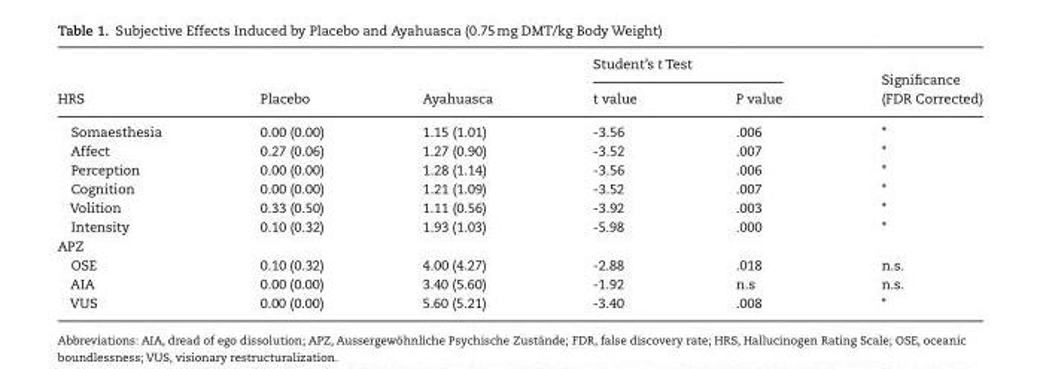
<table><thead><tr><td rowspan="2">HRS</td><td rowspan="2">Placebo</td><td rowspan="2">Ayahuasca</td><td colspan="2">Student’s t Test</td><td rowspan="2">Significance (FDR Corrected)</td></tr><tr><td>t value</td><td>P value</td></tr></thead><tbody><tr><td>Somaesthesia</td><td>0.00 (0.00)</td><td>1.15 (1.01)</td><td>-3.56</td><td>.006</td><td>*</td></tr><tr><td>Affect</td><td>0.27 (0.06)</td><td>1.27 (0.90)</td><td>-3.52</td><td>.007</td><td>*</td></tr><tr><td>Perception</td><td>0.00 (0.00)</td><td>1.28 (1.14)</td><td>-3.56</td><td>.006</td><td>*</td></tr><tr><td>Cognition</td><td>0.00 (0.00)</td><td>1.21 (1.09)</td><td>-3.52</td><td>.007</td><td>*</td></tr><tr><td>Volition</td><td>0.33 (0.50)</td><td>1.11 (0.56)</td><td>-3.92</td><td>.003</td><td>*</td></tr><tr><td>Intensity</td><td>0.10 (0.32)</td><td>1.93 (1.03)</td><td>-5.98</td><td>.000</td><td>*</td></tr><tr><td colspan="6">APZ</td></tr><tr><td>OSE</td><td>0.10 (0.32)</td><td>4.00 (4.27)</td><td>-2.88</td><td>.018</td><td>n.s.</td></tr><tr><td>AIA</td><td>0.00 (0.00)</td><td>3.40 (5.60)</td><td>-1.92</td><td>n.s</td><td>n.s.</td></tr><tr><td>VUS</td><td>0.00 (0.00)</td><td>5.60 (5.21)</td><td>-3.40</td><td>.008</td><td>*</td></tr></tbody></table>